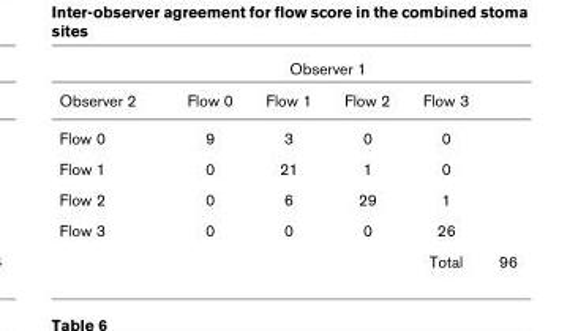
<table><thead><tr><td rowspan="2">Observer 2</td><td colspan="4">Observer 1</td><td rowspan="2"></td></tr><tr><td>Flow 0</td><td>Flow 1</td><td>Flow 2</td><td>Flow 3</td></tr></thead><tbody><tr><td>Flow 0</td><td>9</td><td>3</td><td>0</td><td>0</td><td></td></tr><tr><td>Flow 1</td><td>0</td><td>21</td><td>1</td><td>0</td><td></td></tr><tr><td>Flow 2</td><td>0</td><td>6</td><td>29</td><td>1</td><td></td></tr><tr><td rowspan="2">Flow 3</td><td>0</td><td>0</td><td>0</td><td>26</td><td></td></tr><tr><td></td><td></td><td></td><td>Total</td><td>96</td></tr></tbody></table>